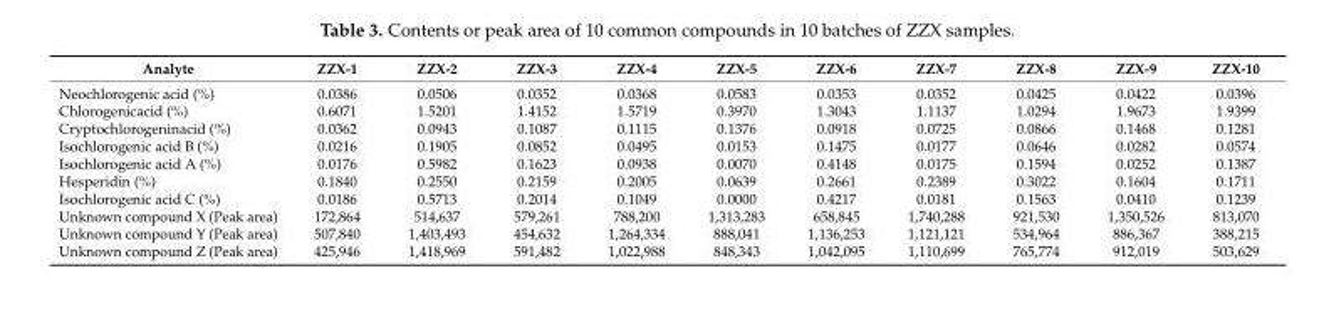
<table><thead><tr><td>Analyte</td><td>ZZX-1</td><td>ZZX-2</td><td>ZZX-3</td><td>ZZX-4</td><td>ZZX-5</td><td>ZZX-6</td><td>ZZX-7</td><td>ZZX-8</td><td>ZZX-9</td><td>ZZX-10</td></tr></thead><tbody><tr><td>Neochlorogenic acid (%)</td><td>0.0386</td><td>0.0506</td><td>0.0352</td><td>0.0368</td><td>0.0583</td><td>0.0353</td><td>0.0352</td><td>0.0425</td><td>0.0422</td><td>0.0396</td></tr><tr><td>Chlorogenicacid (%)</td><td>0.6071</td><td>1.5201</td><td>1.4152</td><td>1.5719</td><td>0.3970</td><td>1.3043</td><td>1.1137</td><td>1.0294</td><td>1.9673</td><td>1.9399</td></tr><tr><td>Cryptochlorogeninacid (%)</td><td>0.0362</td><td>0.0943</td><td>0.1087</td><td>0.1115</td><td>0.1376</td><td>0.0918</td><td>0.0725</td><td>0.0866</td><td>0.1468</td><td>0.1281</td></tr><tr><td>Isochlorogenic acid B (%)</td><td>0.0216</td><td>0.1905</td><td>0.0852</td><td>0.0495</td><td>0.0153</td><td>0.1475</td><td>0.0177</td><td>0.0646</td><td>0.0282</td><td>0.0574</td></tr><tr><td>Isochlorogenic acid A (%)</td><td>0.0176</td><td>0.5982</td><td>0.1623</td><td>0.0938</td><td>0.0070</td><td>0.4148</td><td>0.0175</td><td>0.1594</td><td>0.0252</td><td>0.1387</td></tr><tr><td>Hesperidin (%)</td><td>0.1840</td><td>0.2550</td><td>0.2159</td><td>0.2005</td><td>0.0639</td><td>0.2661</td><td>0.2389</td><td>0.3022</td><td>0.1604</td><td>0.1711</td></tr><tr><td>Isochlorogenic acid C (%)</td><td>0.0186</td><td>0.5713</td><td>0.2014</td><td>0.1049</td><td>0.0000</td><td>0.4217</td><td>0.0181</td><td>0.1563</td><td>0.0410</td><td>0.1239</td></tr><tr><td>Unknown compound X (Peak area)</td><td>172,864</td><td>514,637</td><td>579,261</td><td>788,200</td><td>1,313,283</td><td>658,845</td><td>1,740,288</td><td>921,530</td><td>1,350,526</td><td>813,070</td></tr><tr><td>Unknown compound Y (Peak area)</td><td>507,840</td><td>1,403,493</td><td>454,632</td><td>1,264,334</td><td>888,041</td><td>1,136,253</td><td>1,121,121</td><td>534,964</td><td>886,367</td><td>388,215</td></tr><tr><td>Unknown compound Z (Peak area)</td><td>425,946</td><td>1,418,969</td><td>591,482</td><td>1,022,988</td><td>848,343</td><td>1,042,095</td><td>1,110,699</td><td>765,774</td><td>912,019</td><td>503,629</td></tr></tbody></table>